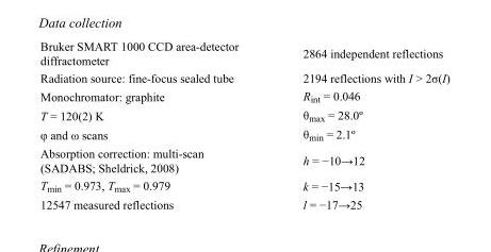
<table><tbody><tr><td>Bruker SMART 1000 CCD area-detector diffractometer</td><td>2864 independent reflections</td></tr><tr><td>Radiation source: fine-focus sealed tube</td><td>2194 reflections with I &gt; 2σ(I)</td></tr><tr><td>Monochromator: graphite</td><td>R<sub>int</sub> = 0.046</td></tr><tr><td>T = 120(2) K</td><td>θ<sub>max</sub> = 28.0º</td></tr><tr><td>φ and ω scans</td><td>θ<sub>min</sub> = 2.1º</td></tr><tr><td>Absorption correction: multi-scan (SADABS; Sheldrick, 2008)</td><td>h = −10→12</td></tr><tr><td>T<sub>min</sub> = 0.973, T<sub>max</sub> = 0.979</td><td>k = −15→13</td></tr><tr><td>12547 measured reflections</td><td>l = −17→25</td></tr></tbody></table>